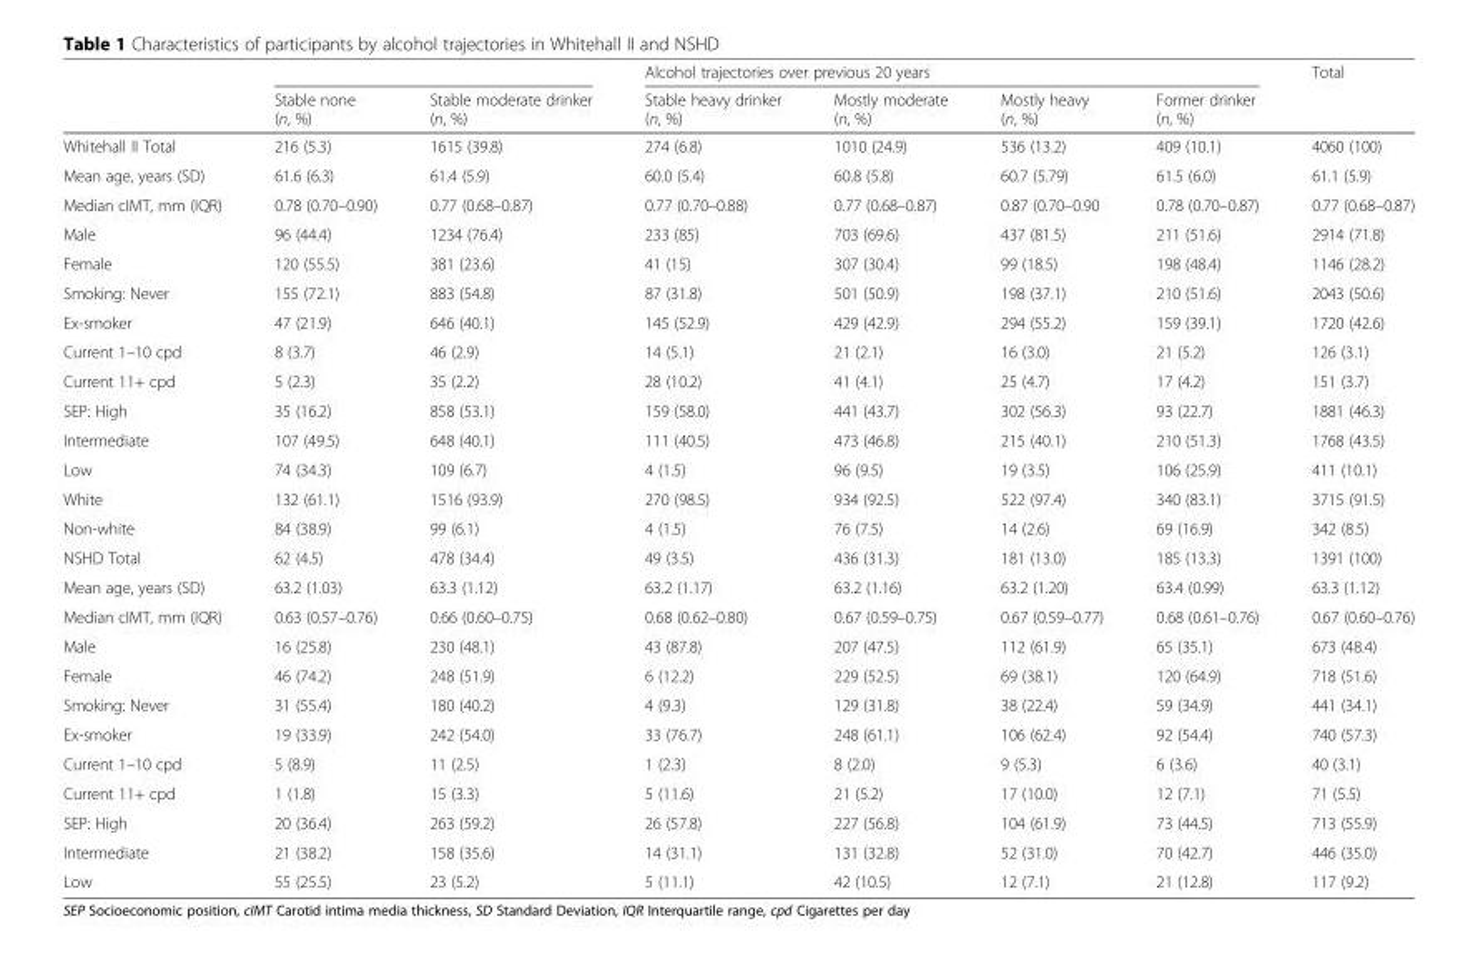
<table><thead><tr><td rowspan="2"></td><td rowspan="2">Stable none (n, %)</td><td rowspan="2">Stable moderate drinker (n, %)</td><td colspan="4">Alcohol trajectories over previous 20 years</td><td rowspan="2">Total</td></tr><tr><td>Stable heavy drinker (n, %)</td><td>Mostly moderate (n, %)</td><td>Mostly heavy (n, %)</td><td>Former drinker (n, %)</td></tr></thead><tbody><tr><td>Whitehall II Total</td><td>216 (5.3)</td><td>1615 (39.8)</td><td>274 (6.8)</td><td>1010 (24.9)</td><td>536 (13.2)</td><td>409 (10.1)</td><td>4060 (100)</td></tr><tr><td>Mean age, years (SD)</td><td>61.6 (6.3)</td><td>61.4 (5.9)</td><td>60.0 (5.4)</td><td>60.8 (5.8)</td><td>60.7 (5.79)</td><td>61.5 (6.0)</td><td>61.1 (5.9)</td></tr><tr><td>Median cIMT, mm (IQR)</td><td>0.78 (0.70–0.90)</td><td>0.77 (0.68–0.87)</td><td>0.77 (0.70–0.88)</td><td>0.77 (0.68–0.87)</td><td>0.87 (0.70–0.90</td><td>0.78 (0.70–0.87)</td><td>0.77 (0.68–0.87)</td></tr><tr><td>Male</td><td>96 (44.4)</td><td>1234 (76.4)</td><td>233 (85)</td><td>703 (69.6)</td><td>437 (81.5)</td><td>211 (51.6)</td><td>2914 (71.8)</td></tr><tr><td>Female</td><td>120 (55.5)</td><td>381 (23.6)</td><td>41 (15)</td><td>307 (30.4)</td><td>99 (18.5)</td><td>198 (48.4)</td><td>1146 (28.2)</td></tr><tr><td>Smoking: Never</td><td>155 (72.1)</td><td>883 (54.8)</td><td>87 (31.8)</td><td>501 (50.9)</td><td>198 (37.1)</td><td>210 (51.6)</td><td>2043 (50.6)</td></tr><tr><td>Ex-smoker</td><td>47 (21.9)</td><td>646 (40.1)</td><td>145 (52.9)</td><td>429 (42.9)</td><td>294 (55.2)</td><td>159 (39.1)</td><td>1720 (42.6)</td></tr><tr><td>Current 1–10 cpd</td><td>8 (3.7)</td><td>46 (2.9)</td><td>14 (5.1)</td><td>21 (2.1)</td><td>16 (3.0)</td><td>21 (5.2)</td><td>126 (3.1)</td></tr><tr><td>Current 11+ cpd</td><td>5 (2.3)</td><td>35 (2.2)</td><td>28 (10.2)</td><td>41 (4.1)</td><td>25 (4.7)</td><td>17 (4.2)</td><td>151 (3.7)</td></tr><tr><td>SEP: High</td><td>35 (16.2)</td><td>858 (53.1)</td><td>159 (58.0)</td><td>441 (43.7)</td><td>302 (56.3)</td><td>93 (22.7)</td><td>1881 (46.3)</td></tr><tr><td>Intermediate</td><td>107 (49.5)</td><td>648 (40.1)</td><td>111 (40.5)</td><td>473 (46.8)</td><td>215 (40.1)</td><td>210 (51.3)</td><td>1768 (43.5)</td></tr><tr><td>Low</td><td>74 (34.3)</td><td>109 (6.7)</td><td>4 (1.5)</td><td>96 (9.5)</td><td>19 (3.5)</td><td>106 (25.9)</td><td>411 (10.1)</td></tr><tr><td>White</td><td>132 (61.1)</td><td>1516 (93.9)</td><td>270 (98.5)</td><td>934 (92.5)</td><td>522 (97.4)</td><td>340 (83.1)</td><td>3715 (91.5)</td></tr><tr><td>Non-white</td><td>84 (38.9)</td><td>99 (6.1)</td><td>4 (1.5)</td><td>76 (7.5)</td><td>14 (2.6)</td><td>69 (16.9)</td><td>342 (8.5)</td></tr><tr><td>NSHD Total</td><td>62 (4.5)</td><td>478 (34.4)</td><td>49 (3.5)</td><td>436 (31.3)</td><td>181 (13.0)</td><td>185 (13.3)</td><td>1391 (100)</td></tr><tr><td>Mean age, years (SD)</td><td>63.2 (1.03)</td><td>63.3 (1.12)</td><td>63.2 (1.17)</td><td>63.2 (1.16)</td><td>63.2 (1.20)</td><td>63.4 (0.99)</td><td>63.3 (1.12)</td></tr><tr><td>Median cIMT, mm (IQR)</td><td>0.63 (0.57–0.76)</td><td>0.66 (0.60–0.75)</td><td>0.68 (0.62–0.80)</td><td>0.67 (0.59–0.75)</td><td>0.67 (0.59–0.77)</td><td>0.68 (0.61–0.76)</td><td>0.67 (0.60–0.76)</td></tr><tr><td>Male</td><td>16 (25.8)</td><td>230 (48.1)</td><td>43 (87.8)</td><td>207 (47.5)</td><td>112 (61.9)</td><td>65 (35.1)</td><td>673 (48.4)</td></tr><tr><td>Female</td><td>46 (74.2)</td><td>248 (51.9)</td><td>6 (12.2)</td><td>229 (52.5)</td><td>69 (38.1)</td><td>120 (64.9)</td><td>718 (51.6)</td></tr><tr><td>Smoking: Never</td><td>31 (55.4)</td><td>180 (40.2)</td><td>4 (9.3)</td><td>129 (31.8)</td><td>38 (22.4)</td><td>59 (34.9)</td><td>441 (34.1)</td></tr><tr><td>Ex-smoker</td><td>19 (33.9)</td><td>242 (54.0)</td><td>33 (76.7)</td><td>248 (61.1)</td><td>106 (62.4)</td><td>92 (54.4)</td><td>740 (57.3)</td></tr><tr><td>Current 1–10 cpd</td><td>5 (8.9)</td><td>11 (2.5)</td><td>1 (2.3)</td><td>8 (2.0)</td><td>9 (5.3)</td><td>6 (3.6)</td><td>40 (3.1)</td></tr><tr><td>Current 11+ cpd</td><td>1 (1.8)</td><td>15 (3.3)</td><td>5 (11.6)</td><td>21 (5.2)</td><td>17 (10.0)</td><td>12 (7.1)</td><td>71 (5.5)</td></tr><tr><td>SEP: High</td><td>20 (36.4)</td><td>263 (59.2)</td><td>26 (57.8)</td><td>227 (56.8)</td><td>104 (61.9)</td><td>73 (44.5)</td><td>713 (55.9)</td></tr><tr><td>Intermediate</td><td>21 (38.2)</td><td>158 (35.6)</td><td>14 (31.1)</td><td>131 (32.8)</td><td>52 (31.0)</td><td>70 (42.7)</td><td>446 (35.0)</td></tr><tr><td>Low</td><td>55 (25.5)</td><td>23 (5.2)</td><td>5 (11.1)</td><td>42 (10.5)</td><td>12 (7.1)</td><td>21 (12.8)</td><td>117 (9.2)</td></tr></tbody></table>